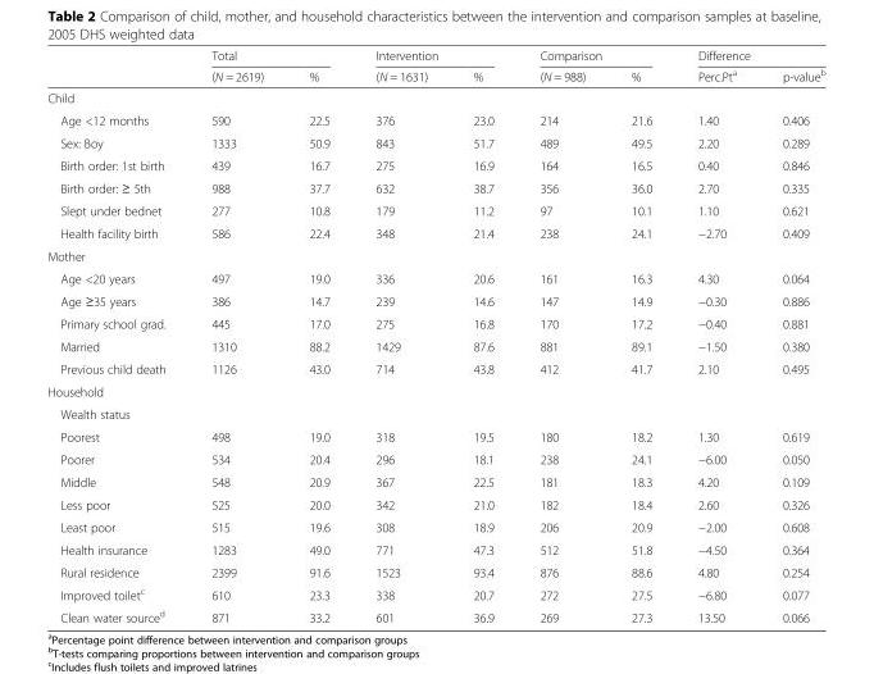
<table><thead><tr><td rowspan="2"></td><td colspan="2">Total</td><td colspan="2">Intervention</td><td colspan="2">Comparison</td><td colspan="2">Difference</td></tr><tr><td>(N = 2619)</td><td>%</td><td>(N = 1631)</td><td>%</td><td>(N = 988)</td><td>%</td><td>Perc.Pt<sup>a</sup></td><td>p-value<sup>b</sup></td></tr></thead><tbody><tr><td colspan="9">Child</td></tr><tr><td>Age &lt;12 months</td><td>590</td><td>22.5</td><td>376</td><td>23.0</td><td>214</td><td>21.6</td><td>1.40</td><td>0.406</td></tr><tr><td>Sex: Boy</td><td>1333</td><td>50.9</td><td>843</td><td>51.7</td><td>489</td><td>49.5</td><td>2.20</td><td>0.289</td></tr><tr><td>Birth order: 1st birth</td><td>439</td><td>16.7</td><td>275</td><td>16.9</td><td>164</td><td>16.5</td><td>0.40</td><td>0.846</td></tr><tr><td>Birth order: ≥ 5th</td><td>988</td><td>37.7</td><td>632</td><td>38.7</td><td>356</td><td>36.0</td><td>2.70</td><td>0.335</td></tr><tr><td>Slept under bednet</td><td>277</td><td>10.8</td><td>179</td><td>11.2</td><td>97</td><td>10.1</td><td>1.10</td><td>0.621</td></tr><tr><td>Health facility birth</td><td>586</td><td>22.4</td><td>348</td><td>21.4</td><td>238</td><td>24.1</td><td>−2.70</td><td>0.409</td></tr><tr><td colspan="9">Mother</td></tr><tr><td>Age &lt;20 years</td><td>497</td><td>19.0</td><td>336</td><td>20.6</td><td>161</td><td>16.3</td><td>4.30</td><td>0.064</td></tr><tr><td>Age ≥35 years</td><td>386</td><td>14.7</td><td>239</td><td>14.6</td><td>147</td><td>14.9</td><td>−0.30</td><td>0.886</td></tr><tr><td>Primary school grad.</td><td>445</td><td>17.0</td><td>275</td><td>16.8</td><td>170</td><td>17.2</td><td>−0.40</td><td>0.881</td></tr><tr><td>Married</td><td>1310</td><td>88.2</td><td>1429</td><td>87.6</td><td>881</td><td>89.1</td><td>−1.50</td><td>0.380</td></tr><tr><td>Previous child death</td><td>1126</td><td>43.0</td><td>714</td><td>43.8</td><td>412</td><td>41.7</td><td>2.10</td><td>0.495</td></tr><tr><td colspan="9">Household</td></tr><tr><td colspan="9">Wealth status</td></tr><tr><td>Poorest</td><td>498</td><td>19.0</td><td>318</td><td>19.5</td><td>180</td><td>18.2</td><td>1.30</td><td>0.619</td></tr><tr><td>Poorer</td><td>534</td><td>20.4</td><td>296</td><td>18.1</td><td>238</td><td>24.1</td><td>−6.00</td><td>0.050</td></tr><tr><td>Middle</td><td>548</td><td>20.9</td><td>367</td><td>22.5</td><td>181</td><td>18.3</td><td>4.20</td><td>0.109</td></tr><tr><td>Less poor</td><td>525</td><td>20.0</td><td>342</td><td>21.0</td><td>182</td><td>18.4</td><td>2.60</td><td>0.326</td></tr><tr><td>Least poor</td><td>515</td><td>19.6</td><td>308</td><td>18.9</td><td>206</td><td>20.9</td><td>−2.00</td><td>0.608</td></tr><tr><td>Health insurance</td><td>1283</td><td>49.0</td><td>771</td><td>47.3</td><td>512</td><td>51.8</td><td>−4.50</td><td>0.364</td></tr><tr><td>Rural residence</td><td>2399</td><td>91.6</td><td>1523</td><td>93.4</td><td>876</td><td>88.6</td><td>4.80</td><td>0.254</td></tr><tr><td>Improved toilet<sup>c</sup></td><td>610</td><td>23.3</td><td>338</td><td>20.7</td><td>272</td><td>27.5</td><td>−6.80</td><td>0.077</td></tr><tr><td>Clean water source<sup>d</sup></td><td>871</td><td>33.2</td><td>601</td><td>36.9</td><td>269</td><td>27.3</td><td>13.50</td><td>0.066</td></tr></tbody></table>